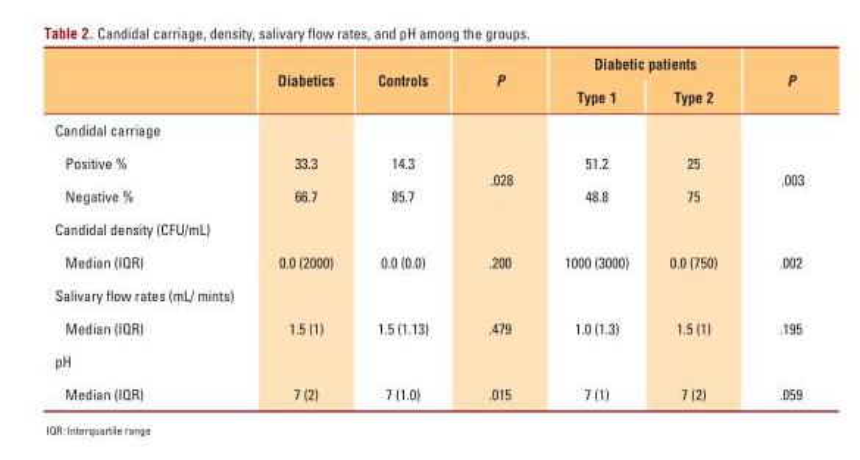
<table><thead><tr><td rowspan="2"></td><td rowspan="2">Diabetics</td><td rowspan="2">Controls</td><td rowspan="2">P</td><td colspan="2">Diabetic patients</td><td rowspan="2">P</td></tr><tr><td>Type 1</td><td>Type 2</td></tr></thead><tbody><tr><td colspan="7">Candidal carriage</td></tr><tr><td>Positive %</td><td>33.3</td><td>14.3</td><td rowspan="2">.028</td><td>51.2</td><td>25</td><td rowspan="2">.003</td></tr><tr><td>Negative %</td><td>66.7</td><td>85.7</td><td>48.8</td><td>75</td></tr><tr><td colspan="7">Candidal density (CFU/mL)</td></tr><tr><td>Median (IQR)</td><td>0.0 (2000)</td><td>0.0 (0.0)</td><td>.200</td><td>1000 (3000)</td><td>0.0 (750)</td><td>.002</td></tr><tr><td colspan="7">Salivary flow rates (mL/ mints)</td></tr><tr><td>Median (IQR)</td><td>1.5 (1)</td><td>1.5 (1.13)</td><td>.479</td><td>1.0 (1.3)</td><td>1.5 (1)</td><td>.195</td></tr><tr><td colspan="7">pH</td></tr><tr><td>Median (IQR)</td><td>7 (2)</td><td>7 (1.0)</td><td>.015</td><td>7 (1)</td><td>7 (2)</td><td>.059</td></tr></tbody></table>